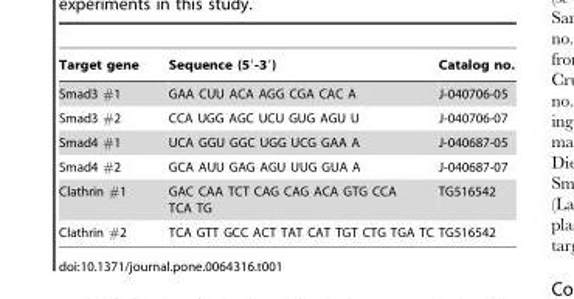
<table><thead><tr><td>Target gene</td><td>Sequence (5′-3′)</td><td>Catalog no.</td></tr></thead><tbody><tr><td>Smad3 #1</td><td>GAA CUU ACA AGG CGA CAC A</td><td>J-040706-05</td></tr><tr><td>Smad3 #2</td><td>CCA UGG AGC UCU GUG AGU U</td><td>J-040706-07</td></tr><tr><td>Smad4 #1</td><td>UCA GGU GGC UGG UCG GAA A</td><td>J-040687-05</td></tr><tr><td>Smad4 #2</td><td>GCA AUU GAG AGU UUG GUA A</td><td>J-040687-07</td></tr><tr><td>Clathrin #1</td><td>GAC CAA TCT CAG CAG ACA GTG CCA TCA TG</td><td>TG516542</td></tr><tr><td>Clathrin #2</td><td>TCA GTT GCC ACT TAT CAT TGT CTG TGA TC</td><td>TG516542</td></tr></tbody></table>